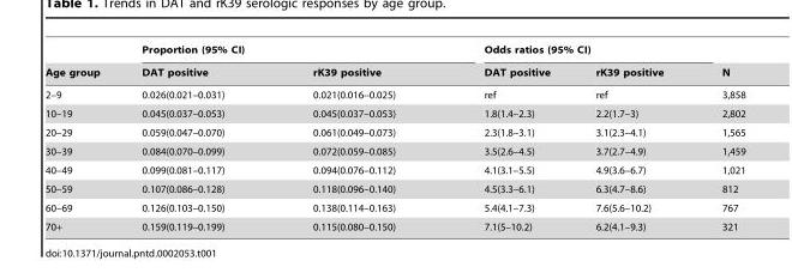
<table><thead><tr><td rowspan="2">Age group</td><td colspan="2">Proportion (95% CI)</td><td colspan="2">Odds ratios (95% CI)</td><td rowspan="2">N</td></tr><tr><td>DAT positive</td><td>rK39 positive</td><td>DAT positive</td><td>rK39 positive</td></tr></thead><tbody><tr><td>2–9</td><td>0.026(0.021–0.031)</td><td>0.021(0.016–0.025)</td><td>ref</td><td>ref</td><td>3,858</td></tr><tr><td>10–19</td><td>0.045(0.037–0.053)</td><td>0.045(0.037–0.053)</td><td>1.8(1.4–2.3)</td><td>2.2(1.7–3)</td><td>2,802</td></tr><tr><td>20–29</td><td>0.059(0.047–0.070)</td><td>0.061(0.049–0.073)</td><td>2.3(1.8–3.1)</td><td>3.1(2.3–4.1)</td><td>1,565</td></tr><tr><td>30–39</td><td>0.084(0.070–0.099)</td><td>0.072(0.059–0.085)</td><td>3.5(2.6–4.5)</td><td>3.7(2.7–4.9)</td><td>1,459</td></tr><tr><td>40–49</td><td>0.099(0.081–0.117)</td><td>0.094(0.076–0.112)</td><td>4.1(3.1–5.5)</td><td>4.9(3.6–6.7)</td><td>1,021</td></tr><tr><td>50–59</td><td>0.107(0.086–0.128)</td><td>0.118(0.096–0.140)</td><td>4.5(3.3–6.1)</td><td>6.3(4.7–8.6)</td><td>812</td></tr><tr><td>60–69</td><td>0.126(0.103–0.150)</td><td>0.138(0.114–0.163)</td><td>5.4(4.1–7.3)</td><td>7.6(5.6–10.2)</td><td>767</td></tr><tr><td>70+</td><td>0.159(0.119–0.199)</td><td>0.115(0.080–0.150)</td><td>7.1(5–10.2)</td><td>6.2(4.1–9.3)</td><td>321</td></tr></tbody></table>